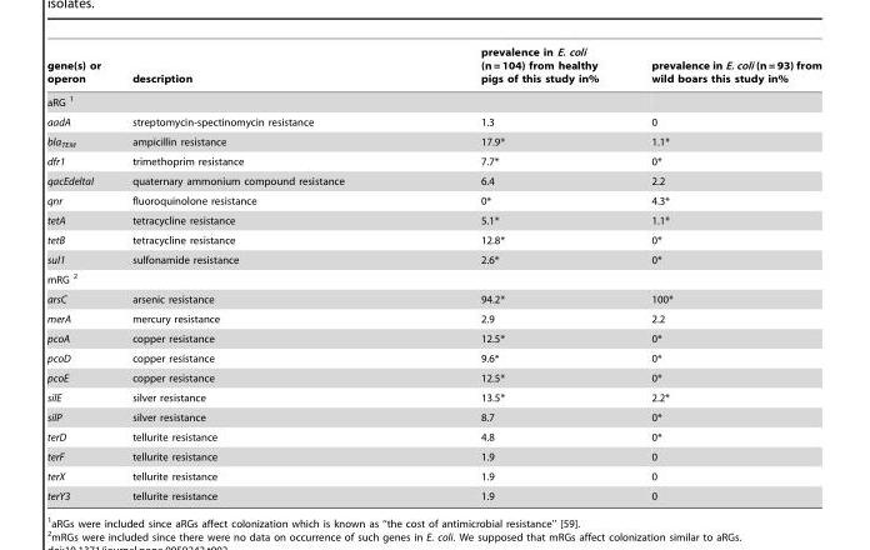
<table><thead><tr><td>gene(s) or operon</td><td>description</td><td>prevalence in E. coli (n = 104) from healthy pigs of this study in%</td><td>prevalence in E. coli (n = 93) from wild boars this study in%</td></tr></thead><tbody><tr><td colspan="4">aRG 1</td></tr><tr><td>aadA</td><td>streptomycin-spectinomycin resistance</td><td>1.3</td><td>0</td></tr><tr><td>bla<sub>TEM</sub></td><td>ampicillin resistance</td><td>17.9*</td><td>1.1*</td></tr><tr><td>dfr1</td><td>trimethoprim resistance</td><td>7.7*</td><td>0*</td></tr><tr><td>qacEdeltaI</td><td>quaternary ammonium compound resistance</td><td>6.4</td><td>2.2</td></tr><tr><td>qnr</td><td>fluoroquinolone resistance</td><td>0*</td><td>4.3*</td></tr><tr><td>tetA</td><td>tetracycline resistance</td><td>5.1*</td><td>1.1*</td></tr><tr><td>tetB</td><td>tetracycline resistance</td><td>12.8*</td><td>0*</td></tr><tr><td>sul1</td><td>sulfonamide resistance</td><td>2.6*</td><td>0*</td></tr><tr><td colspan="4">mRG 2</td></tr><tr><td>arsC</td><td>arsenic resistance</td><td>94.2*</td><td>100*</td></tr><tr><td>merA</td><td>mercury resistance</td><td>2.9</td><td>2.2</td></tr><tr><td>pcoA</td><td>copper resistance</td><td>12.5*</td><td>0*</td></tr><tr><td>pcoD</td><td>copper resistance</td><td>9.6*</td><td>0*</td></tr><tr><td>pcoE</td><td>copper resistance</td><td>12.5*</td><td>0*</td></tr><tr><td>silE</td><td>silver resistance</td><td>13.5*</td><td>2.2*</td></tr><tr><td>silP</td><td>silver resistance</td><td>8.7</td><td>0*</td></tr><tr><td>terD</td><td>tellurite resistance</td><td>4.8</td><td>0*</td></tr><tr><td>terF</td><td>tellurite resistance</td><td>1.9</td><td>0</td></tr><tr><td>terX</td><td>tellurite resistance</td><td>1.9</td><td>0</td></tr><tr><td>terY3</td><td>tellurite resistance</td><td>1.9</td><td>0</td></tr></tbody></table>